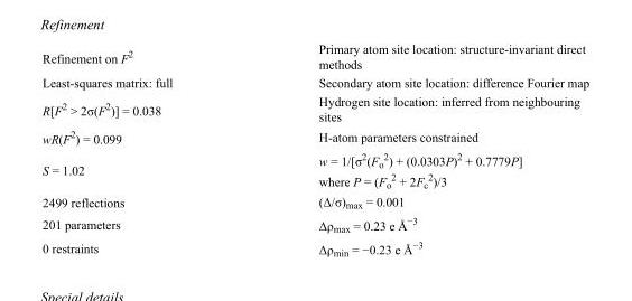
<table><tbody><tr><td>Refinement on F<sup>2</sup></td><td>Primary atom site location: structure-invariant direct methods</td></tr><tr><td>Least-squares matrix: full</td><td>Secondary atom site location: difference Fourier map</td></tr><tr><td>R[F<sup>2</sup> &gt; 2σ(F<sup>2</sup>)] = 0.038</td><td>Hydrogen site location: inferred from neighbouring sites</td></tr><tr><td>wR(F<sup>2</sup>) = 0.099</td><td>H-atom parameters constrained</td></tr><tr><td>S = 1.02</td><td>w = 1/[σ<sup>2</sup>(F<sub>o</sub> <sup>2</sup>) + (0.0303P)<sup>2</sup> + 0.7779P] where P = (F<sub>o</sub> <sup>2</sup> + 2F<sub>c</sub> <sup>2</sup>)/3</td></tr><tr><td>2499 reflections</td><td>(Δ/σ)<sub>max</sub> = 0.001</td></tr><tr><td>201 parameters</td><td>Δρ<sub>max</sub> = 0.23 e Å<sup>−3</sup></td></tr><tr><td>0 restraints</td><td>Δρ<sub>min</sub> = −0.23 e Å<sup>−3</sup></td></tr></tbody></table>